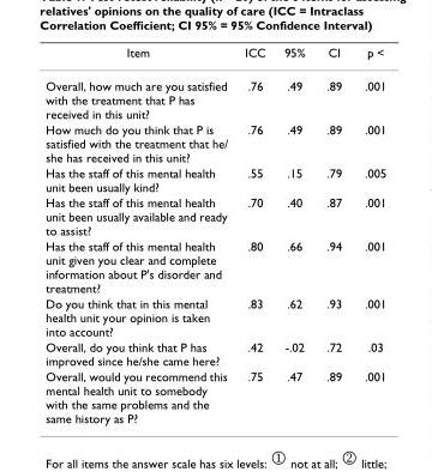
<table><thead><tr><td>Item</td><td>ICC</td><td>95%</td><td>CI</td><td>p &lt;</td></tr></thead><tbody><tr><td>Overall, how much are you satisfied with the treatment that P has received in this unit?</td><td>.76</td><td>.49</td><td>.89</td><td>.001</td></tr><tr><td>How much do you think that P is satisfied with the treatment that he/ she has received in this unit?</td><td>.76</td><td>.49</td><td>.89</td><td>.001</td></tr><tr><td>Has the staff of this mental health unit been usually kind?</td><td>.55</td><td>.15</td><td>.79</td><td>.005</td></tr><tr><td>Has the staff of this mental health unit been usually available and ready to assist?</td><td>.70</td><td>.40</td><td>.87</td><td>.001</td></tr><tr><td>Has the staff of this mental health unit given you clear and complete information about P&#x27;s disorder and treatment?</td><td>.80</td><td>.66</td><td>.94</td><td>.001</td></tr><tr><td>Do you think that in this mental health unit your opinion is taken into account?</td><td>.83</td><td>.62</td><td>.93</td><td>.001</td></tr><tr><td>Overall, do you think that P has improved since he/she came here?</td><td>.42</td><td>-.02</td><td>.72</td><td>.03</td></tr><tr><td>Overall, would you recommend this mental health unit to somebody with the same problems and the same history as P?</td><td>.75</td><td>.47</td><td>.89</td><td>.001</td></tr></tbody></table>